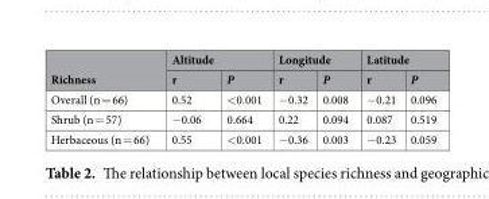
<table><thead><tr><td rowspan="2">Richness</td><td colspan="2">Altitude</td><td colspan="2">Longitude</td><td colspan="2">Latitude</td></tr><tr><td>r</td><td>P</td><td>r</td><td>P</td><td>r</td><td>P</td></tr></thead><tbody><tr><td>Overall (n = 66)</td><td>0.52</td><td>&lt;0.001</td><td>−0.32</td><td>0.008</td><td>−0.21</td><td>0.096</td></tr><tr><td>Shrub (n = 57)</td><td>−0.06</td><td>0.664</td><td>0.22</td><td>0.094</td><td>0.087</td><td>0.519</td></tr><tr><td>Herbaceous (n = 66)</td><td>0.55</td><td>&lt;0.001</td><td>−0.36</td><td>0.003</td><td>−0.23</td><td>0.059</td></tr></tbody></table>